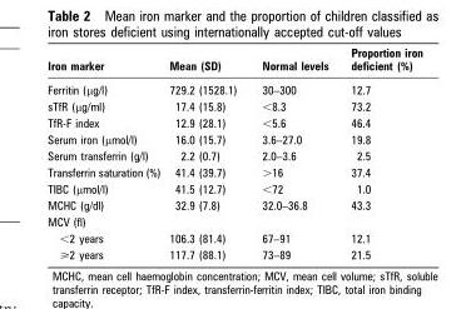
<table><thead><tr><td>Iron marker</td><td>Mean (SD)</td><td>Normal levels</td><td>Proportion iron deficient (%)</td></tr></thead><tbody><tr><td>Ferritin (μg/l)</td><td>729.2 (1528.1)</td><td>30–300</td><td>12.7</td></tr><tr><td>sTfR (μg/ml)</td><td>17.4 (15.8)</td><td>&lt;8.3</td><td>73.2</td></tr><tr><td>TfR-F index</td><td>12.9 (28.1)</td><td>&lt;5.6</td><td>46.4</td></tr><tr><td>Serum iron (μmol/l)</td><td>16.0 (15.7)</td><td>3.6–27.0</td><td>19.8</td></tr><tr><td>Serum transferrin (g/l)</td><td>2.2 (0.7)</td><td>2.0–3.6</td><td>2.5</td></tr><tr><td>Transferrin saturation (%)</td><td>41.4 (39.7)</td><td>&gt;16</td><td>37.4</td></tr><tr><td>TIBC (μmol/l)</td><td>41.5 (12.7)</td><td>&lt;72</td><td>1.0</td></tr><tr><td>MCHC (g/dl)</td><td>32.9 (7.8)</td><td>32.0–36.8</td><td>43.3</td></tr><tr><td colspan="4">MCV (fl)</td></tr><tr><td>&lt;2 years</td><td>106.3 (81.4)</td><td>67–91</td><td>12.1</td></tr><tr><td>&gt;2 years</td><td>117.7 (88.1)</td><td>73–89</td><td>21.5</td></tr></tbody></table>